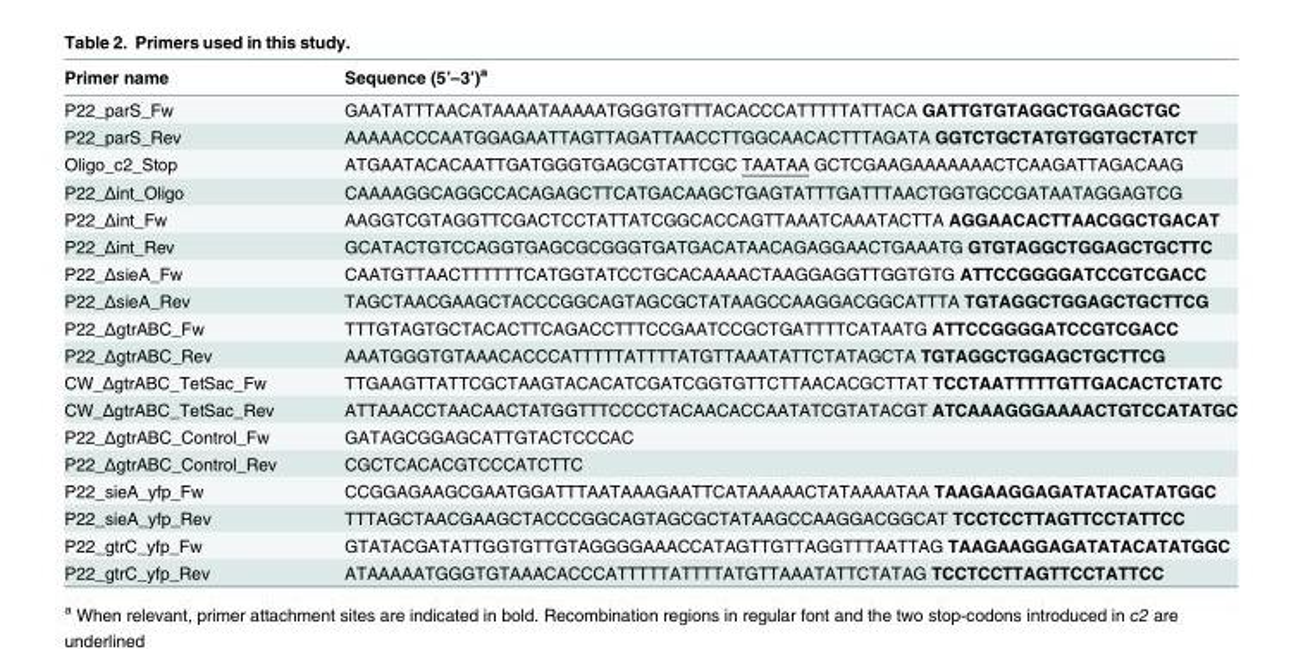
<table><thead><tr><td>Primer name</td><td>Sequence (5’–3’)<sup>a</sup></td></tr></thead><tbody><tr><td>P22_parS_Fw</td><td>GAATATTTAACATAAAATAAAAATGGGTGTTTACACCCATTTTTATTACA GATTGTGTAGGCTGGAGCTGC</td></tr><tr><td>P22_parS_Rev</td><td>AAAAACCCAATGGAGAATTAGTTAGATTAACCTTGGCAACACTTTAGATA GGTCTGCTATGTGGTGCTATCT</td></tr><tr><td>Oligo_c2_Stop</td><td>ATGAATACACAATTGATGGGTGAGCGTATTCGC TAATAA GCTCGAAGAAAAAAACTCAAGATTAGACAAG</td></tr><tr><td>P22_Δint_Oligo</td><td>CAAAAGGCAGGCCACAGAGCTTCATGACAAGCTGAGTATTTGATTTAACTGGTGCCGATAATAGGAGTCG</td></tr><tr><td>P22_Δint_Fw</td><td>AAGGTCGTAGGTTCGACTCCTATTATCGGCACCAGTTAAATCAAATACTTA AGGAACACTTAACGGCTGACAT</td></tr><tr><td>P22_Δint_Rev</td><td>GCATACTGTCCAGGTGAGCGCGGGTGATGACATAACAGAGGAACTGAAATG GTGTAGGCTGGAGCTGCTTC</td></tr><tr><td>P22_ΔsieA_Fw</td><td>CAATGTTAACTTTTTTCATGGTATCCTGCACAAAACTAAGGAGGTTGGTGTG ATTCCGGGGATCCGTCGACC</td></tr><tr><td>P22_ΔsieA_Rev</td><td>TAGCTAACGAAGCTACCCGGCAGTAGCGCTATAAGCCAAGGACGGCATTTA TGTAGGCTGGAGCTGCTTCG</td></tr><tr><td>P22_ΔgtrABC_Fw</td><td>TTTGTAGTGCTACACTTCAGACCTTTCCGAATCCGCTGATTTTCATAATG ATTCCGGGGATCCGTCGACC</td></tr><tr><td>P22_ΔgtrABC_Rev</td><td>AAATGGGTGTAAACACCCATTTTTATTTTATGTTAAATATTCTATAGCTA TGTAGGCTGGAGCTGCTTCG</td></tr><tr><td>CW_ΔgtrABC_TetSac_Fw</td><td>TTGAAGTTATTCGCTAAGTACACATCGATCGGTGTTCTTAACACGCTTAT TCCTAATTTTTGTTGACACTCTATC</td></tr><tr><td>CW_ΔgtrABC_TetSac_Rev</td><td>ATTAAACCTAACAACTATGGTTTCCCCTACAACACCAATATCGTATACGT ATCAAAGGGAAAACTGTCCATATGC</td></tr><tr><td>P22_ΔgtrABC_Control_Fw</td><td>GATAGCGGAGCATTGTACTCCCAC</td></tr><tr><td>P22_ΔgtrABC_Control_Rev</td><td>CGCTCACACGTCCCATCTTC</td></tr><tr><td>P22_sieA_yfp_Fw</td><td>CCGGAGAAGCGAATGGATTTAATAAAGAATTCATAAAAACTATAAAATAA TAAGAAGGAGATATACATATGGC</td></tr><tr><td>P22_sieA_yfp_Rev</td><td>TTTAGCTAACGAAGCTACCCGGCAGTAGCGCTATAAGCCAAGGACGGCAT TCCTCCTTAGTTCCTATTCC</td></tr><tr><td>P22_gtrC_yfp_Fw</td><td>GTATACGATATTGGTGTTGTAGGGGAAACCATAGTTGTTAGGTTTAATTAG TAAGAAGGAGATATACATATGGC</td></tr><tr><td>P22_gtrC_yfp_Rev</td><td>ATAAAAATGGGTGTAAACACCCATTTTTATTTTATGTTAAATATTCTATAG TCCTCCTTAGTTCCTATTCC</td></tr></tbody></table>